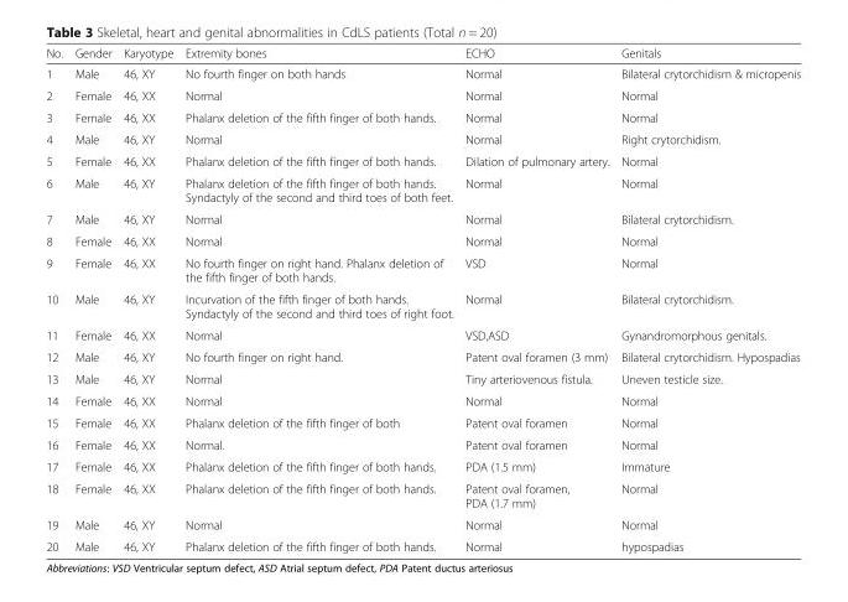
<table><thead><tr><td>No.</td><td>Gender</td><td>Karyotype</td><td>Extremity bones</td><td>ECHO</td><td>Genitals</td></tr></thead><tbody><tr><td>1</td><td>Male</td><td>46, XY</td><td>No fourth finger on both hands</td><td>Normal</td><td>Bilateral crytorchidism &amp; micropenis</td></tr><tr><td>2</td><td>Female</td><td>46, XX</td><td>Normal</td><td>Normal</td><td>Normal</td></tr><tr><td>3</td><td>Female</td><td>46, XX</td><td>Phalanx deletion of the fifth finger of both hands.</td><td>Normal</td><td>Normal</td></tr><tr><td>4</td><td>Male</td><td>46, XY</td><td>Normal</td><td>Normal</td><td>Right crytorchidism.</td></tr><tr><td>5</td><td>Female</td><td>46, XX</td><td>Phalanx deletion of the fifth finger of both hands.</td><td>Dilation of pulmonary artery.</td><td>Normal</td></tr><tr><td>6</td><td>Male</td><td>46, XY</td><td>Phalanx deletion of the fifth finger of both hands. Syndactyly of the second and third toes of both feet.</td><td>Normal</td><td>Normal</td></tr><tr><td>7</td><td>Male</td><td>46, XY</td><td>Normal</td><td>Normal</td><td>Bilateral crytorchidism.</td></tr><tr><td>8</td><td>Female</td><td>46, XX</td><td>Normal</td><td>Normal</td><td>Normal</td></tr><tr><td>9</td><td>Female</td><td>46, XX</td><td>No fourth finger on right hand. Phalanx deletion of the fifth finger of both hands.</td><td>VSD</td><td>Normal</td></tr><tr><td>10</td><td>Male</td><td>46, XY</td><td>Incurvation of the fifth finger of both hands. Syndactyly of the second and third toes of right foot.</td><td>Normal</td><td>Bilateral crytorchidism.</td></tr><tr><td>11</td><td>Female</td><td>46, XX</td><td>Normal</td><td>VSD,ASD</td><td>Gynandromorphous genitals.</td></tr><tr><td>12</td><td>Male</td><td>46, XY</td><td>No fourth finger on right hand.</td><td>Patent oval foramen (3 mm)</td><td>Bilateral crytorchidism. Hypospadias</td></tr><tr><td>13</td><td>Male</td><td>46, XY</td><td>Normal</td><td>Tiny arteriovenous fistula.</td><td>Uneven testicle size.</td></tr><tr><td>14</td><td>Female</td><td>46, XX</td><td>Normal</td><td>Normal</td><td>Normal</td></tr><tr><td>15</td><td>Female</td><td>46, XX</td><td>Phalanx deletion of the fifth finger of both</td><td>Patent oval foramen</td><td>Normal</td></tr><tr><td>16</td><td>Female</td><td>46, XX</td><td>Normal.</td><td>Patent oval foramen</td><td>Normal</td></tr><tr><td>17</td><td>Female</td><td>46, XX</td><td>Phalanx deletion of the fifth finger of both hands.</td><td>PDA (1.5 mm)</td><td>Immature</td></tr><tr><td>18</td><td>Female</td><td>46, XX</td><td>Phalanx deletion of the fifth finger of both hands.</td><td>Patent oval foramen, PDA (1.7 mm)</td><td>Normal</td></tr><tr><td>19</td><td>Male</td><td>46, XY</td><td>Normal</td><td>Normal</td><td>Normal</td></tr><tr><td>20</td><td>Male</td><td>46, XY</td><td>Phalanx deletion of the fifth finger of both hands.</td><td>Normal</td><td>hypospadias</td></tr></tbody></table>